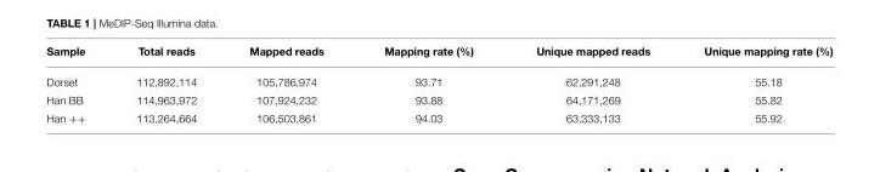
<table><thead><tr><td>Sample</td><td>Total reads</td><td>Mapped reads</td><td>Mapping rate (%)</td><td>Unique mapped reads</td><td>Unique mapping rate (%)</td></tr></thead><tbody><tr><td>Dorset</td><td>112,892,114</td><td>105,786,974</td><td>93.71</td><td>62,291,248</td><td>55.18</td></tr><tr><td>Han BB</td><td>114,963,972</td><td>107,924,232</td><td>93.88</td><td>64,171,269</td><td>55.82</td></tr><tr><td>Han ++</td><td>113,264,664</td><td>106,503,861</td><td>94.03</td><td>63,333,133</td><td>55.92</td></tr></tbody></table>